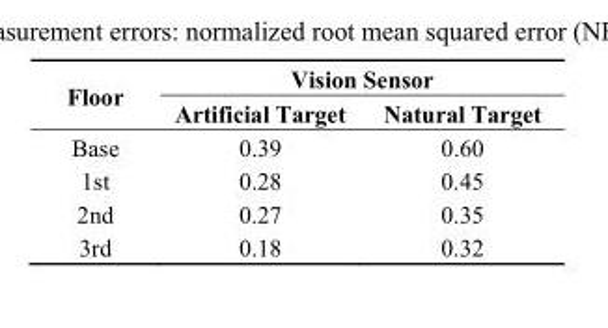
<table><thead><tr><td rowspan="2">Floor</td><td colspan="2">Vision Sensor</td></tr><tr><td>Artificial Target</td><td>Natural Target</td></tr></thead><tbody><tr><td>Base</td><td>0.39</td><td>0.60</td></tr><tr><td>1st</td><td>0.28</td><td>0.45</td></tr><tr><td>2nd</td><td>0.27</td><td>0.35</td></tr><tr><td>3rd</td><td>0.18</td><td>0.32</td></tr></tbody></table>